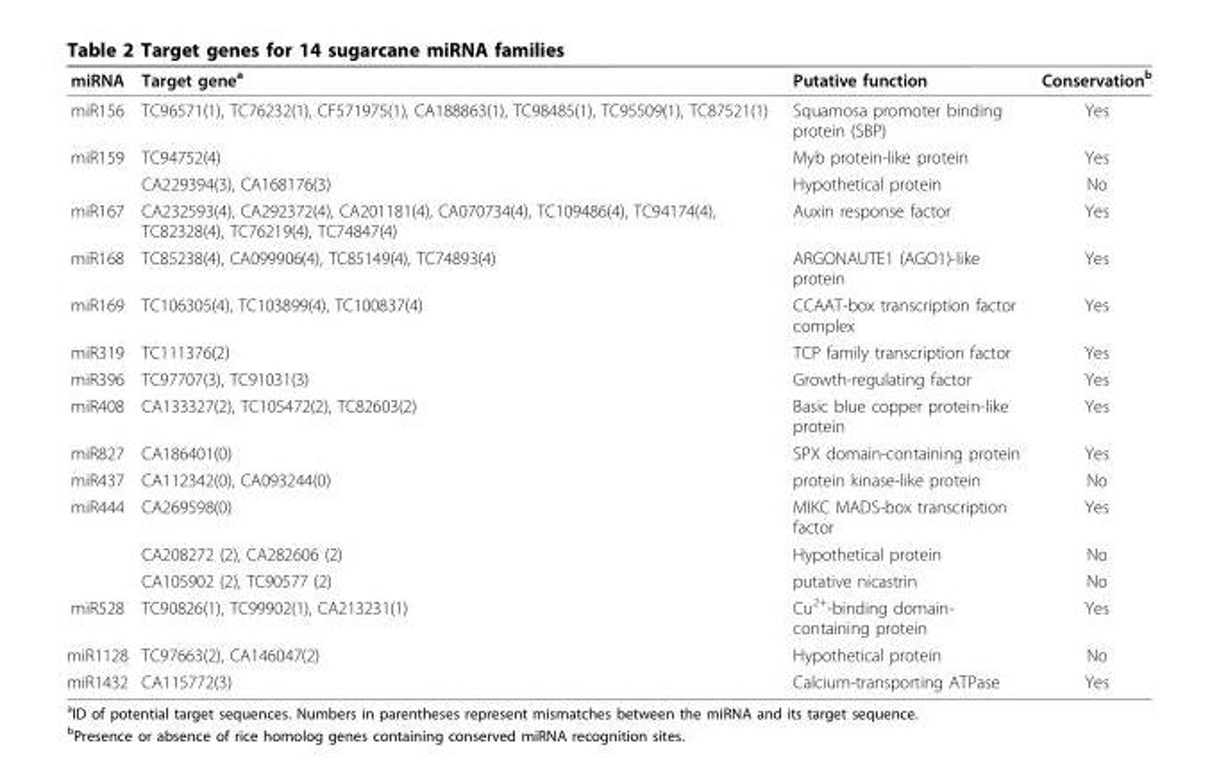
<table><thead><tr><td>miRNA</td><td>Target gene<sup>a</sup></td><td>Putative function</td><td>Conservation<sup>b</sup></td></tr></thead><tbody><tr><td>miR156</td><td>TC96571(1), TC76232(1), CF571975(1), CA188863(1), TC98485(1), TC95509(1), TC87521(1)</td><td>Squamosa promoter binding protein (SBP)</td><td>Yes</td></tr><tr><td rowspan="2">miR159</td><td>TC94752(4)</td><td>Myb protein-like protein</td><td>Yes</td></tr><tr><td>CA229394(3), CA168176(3)</td><td>Hypothetical protein</td><td>No</td></tr><tr><td>miR167</td><td>CA232593(4), CA292372(4), CA201181(4), CA070734(4), TC109486(4), TC94174(4), TC82328(4), TC76219(4), TC74847(4)</td><td>Auxin response factor</td><td>Yes</td></tr><tr><td>miR168</td><td>TC85238(4), CA099906(4), TC85149(4), TC74893(4)</td><td>ARGONAUTE1 (AGO1)-like protein</td><td>Yes</td></tr><tr><td>miR169</td><td>TC106305(4), TC103899(4), TC100837(4)</td><td>CCAAT-box transcription factor complex</td><td>Yes</td></tr><tr><td>miR319</td><td>TC111376(2)</td><td>TCP family transcription factor</td><td>Yes</td></tr><tr><td>miR396</td><td>TC97707(3), TC91031(3)</td><td>Growth-regulating factor</td><td>Yes</td></tr><tr><td>miR408</td><td>CA133327(2), TC105472(2), TC82603(2)</td><td>Basic blue copper protein-like protein</td><td>Yes</td></tr><tr><td>miR827</td><td>CA186401(0)</td><td>SPX domain-containing protein</td><td>Yes</td></tr><tr><td>miR437</td><td>CA112342(0), CA093244(0)</td><td>protein kinase-like protein</td><td>No</td></tr><tr><td rowspan="3">miR444</td><td>CA269598(0)</td><td>MIKC MADS-box transcription factor</td><td>Yes</td></tr><tr><td>CA208272 (2), CA282606 (2)</td><td>Hypothetical protein</td><td>No</td></tr><tr><td>CA105902 (2), TC90577 (2)</td><td>putative nicastrin</td><td>No</td></tr><tr><td>miR528</td><td>TC90826(1), TC99902(1), CA213231(1)</td><td>Cu<sup>2+</sup>-binding domain- containing protein</td><td>Yes</td></tr><tr><td>miR1128</td><td>TC97663(2), CA146047(2)</td><td>Hypothetical protein</td><td>No</td></tr><tr><td>miR1432</td><td>CA115772(3)</td><td>Calcium-transporting ATPase</td><td>Yes</td></tr></tbody></table>